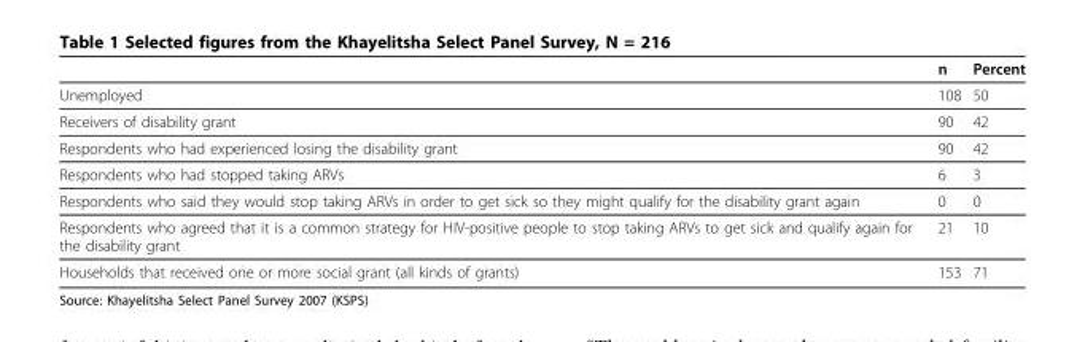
<table><thead><tr><td></td><td>n</td><td>Percent</td></tr></thead><tbody><tr><td>Unemployed</td><td>108</td><td>50</td></tr><tr><td>Receivers of disability grant</td><td>90</td><td>42</td></tr><tr><td>Respondents who had experienced losing the disability grant</td><td>90</td><td>42</td></tr><tr><td>Respondents who had stopped taking ARVs</td><td>6</td><td>3</td></tr><tr><td>Respondents who said they would stop taking ARVs in order to get sick so they might qualify for the disability grant again</td><td>0</td><td>0</td></tr><tr><td>Respondents who agreed that it is a common strategy for HIV-positive people to stop taking ARVs to get sick and qualify again for the disability grant</td><td>21</td><td>10</td></tr><tr><td>Households that received one or more social grant (all kinds of grants)</td><td>153</td><td>71</td></tr></tbody></table>